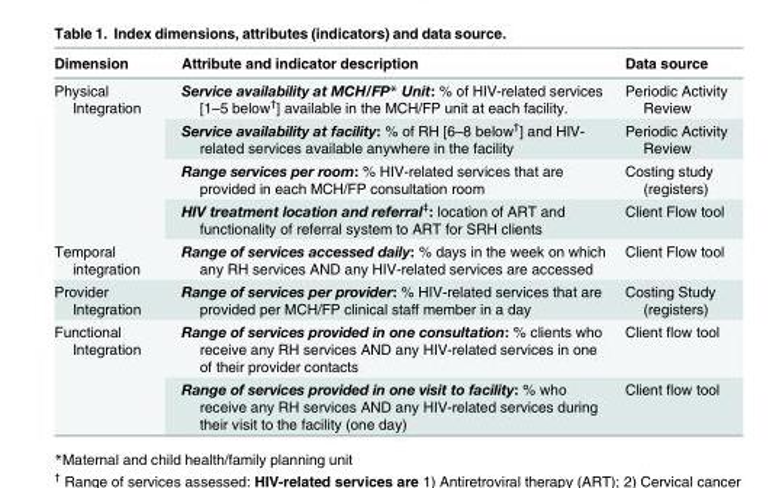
<table><thead><tr><td>Dimension</td><td>Attribute and indicator description</td><td>Data source</td></tr></thead><tbody><tr><td rowspan="4">Physical Integration</td><td>Service availability at MCH/FP* Unit: % of HIV-related services [1–5 below<sup>†</sup>] available in the MCH/FP unit at each facility.</td><td>Periodic Activity Review</td></tr><tr><td>Service availability at facility: % of RH [6–8 below<sup>†</sup>] and HIV- related services available anywhere in the facility</td><td>Periodic Activity Review</td></tr><tr><td>Range services per room: % HIV-related services that are provided in each MCH/FP consultation room</td><td>Costing study (registers)</td></tr><tr><td>HIV treatment location and referral<sup>‡</sup>: location of ART and functionality of referral system to ART for SRH clients</td><td>Client Flow tool</td></tr><tr><td>Temporal integration</td><td>Range of services accessed daily: % days in the week on which any RH services AND any HIV-related services are accessed</td><td>Client Flow tool</td></tr><tr><td>Provider Integration</td><td>Range of services per provider: % HIV-related services that are provided per MCH/FP clinical staff member in a day</td><td>Costing Study (registers)</td></tr><tr><td rowspan="2">Functional Integration</td><td>Range of services provided in one consultation: % clients who receive any RH services AND any HIV-related services in one of their provider contacts</td><td>Client flow tool</td></tr><tr><td>Range of services provided in one visit to facility: % who receive any RH services AND any HIV-related services during their visit to the facility (one day)</td><td>Client flow tool</td></tr></tbody></table>